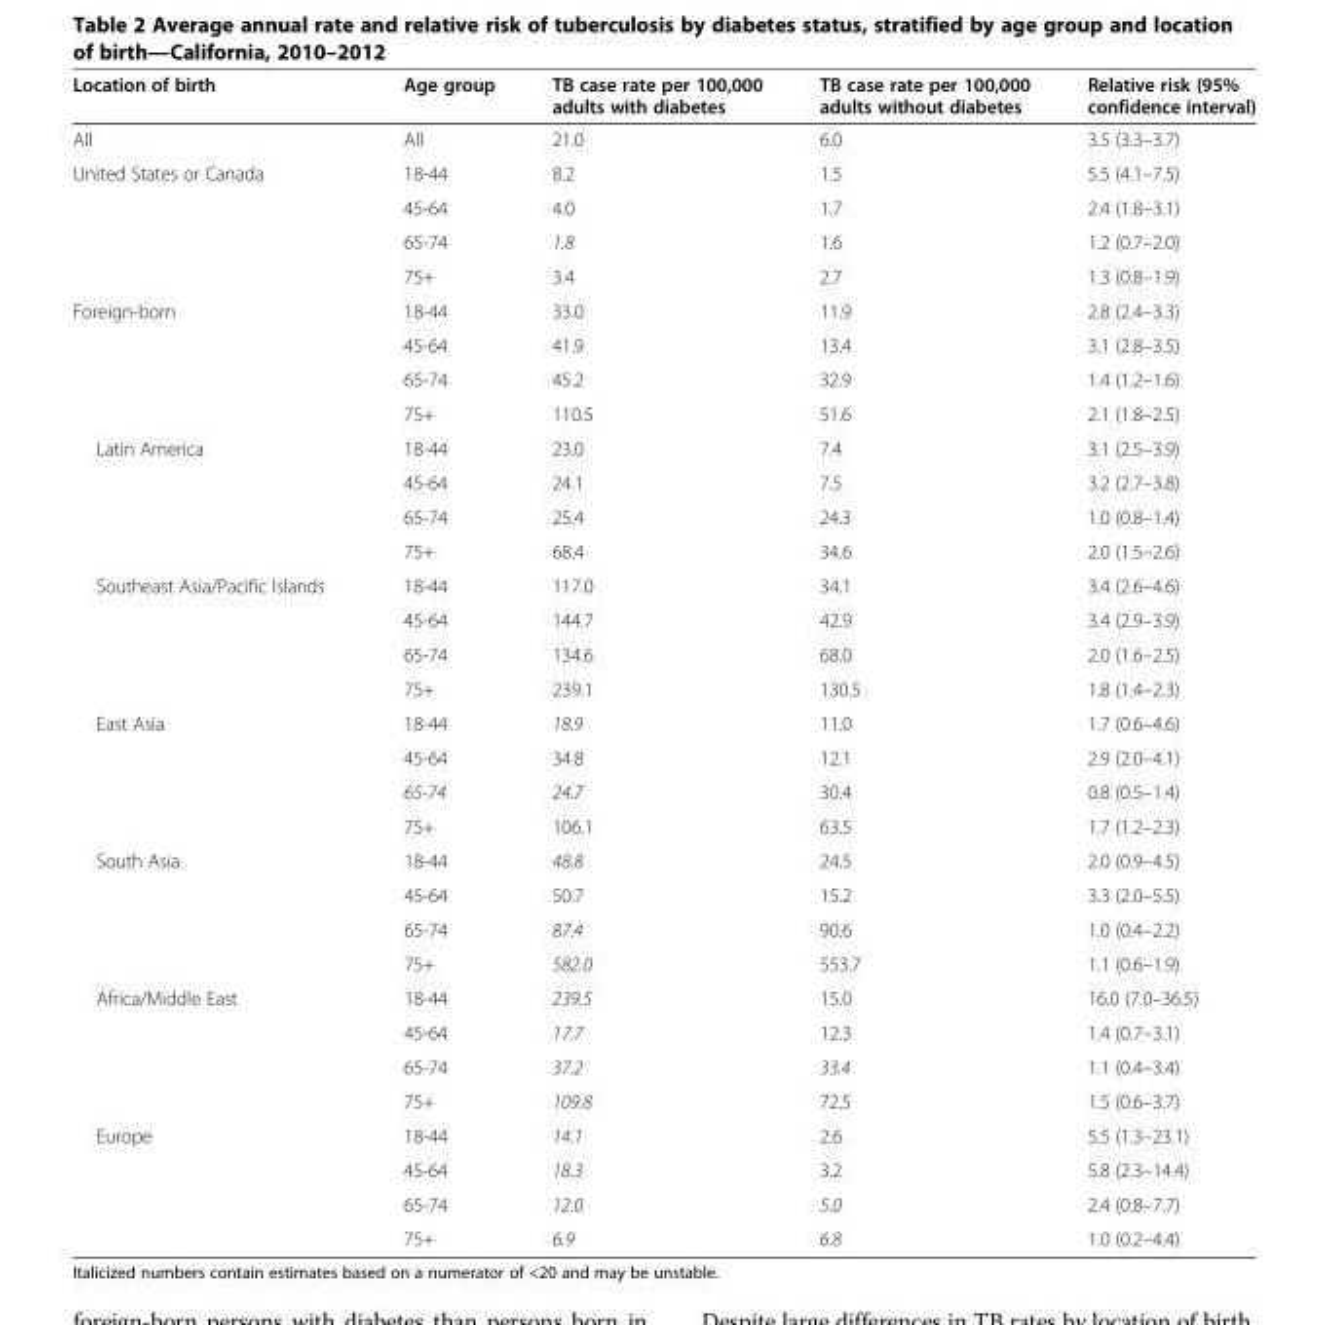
<table><thead><tr><td>Location of birth</td><td>Age group</td><td>TB case rate per 100,000 adults with diabetes</td><td>TB case rate per 100,000 adults without diabetes</td><td>Relative risk (95% confidence interval)</td></tr></thead><tbody><tr><td>All</td><td>All</td><td>21.0</td><td>6.0</td><td>3.5 (3.3–3.7)</td></tr><tr><td rowspan="4">United States or Canada</td><td>18-44</td><td>8.2</td><td>1.5</td><td>5.5 (4.1–7.5)</td></tr><tr><td>45-64</td><td>4.0</td><td>1.7</td><td>2.4 (1.8–3.1)</td></tr><tr><td>65-74</td><td>1.8</td><td>1.6</td><td>1.2 (0.7–2.0)</td></tr><tr><td>75+</td><td>3.4</td><td>2.7</td><td>1.3 (0.8–1.9)</td></tr><tr><td rowspan="4">Foreign-born</td><td>18-44</td><td>33.0</td><td>11.9</td><td>2.8 (2.4–3.3)</td></tr><tr><td>45-64</td><td>41.9</td><td>13.4</td><td>3.1 (2.8–3.5)</td></tr><tr><td>65-74</td><td>45.2</td><td>32.9</td><td>1.4 (1.2–1.6)</td></tr><tr><td>75+</td><td>110.5</td><td>51.6</td><td>2.1 (1.8–2.5)</td></tr><tr><td rowspan="4">Latin America</td><td>18-44</td><td>23.0</td><td>7.4</td><td>3.1 (2.5–3.9)</td></tr><tr><td>45-64</td><td>24.1</td><td>7.5</td><td>3.2 (2.7–3.8)</td></tr><tr><td>65-74</td><td>25.4</td><td>24.3</td><td>1.0 (0.8–1.4)</td></tr><tr><td>75+</td><td>68.4</td><td>34.6</td><td>2.0 (1.5–2.6)</td></tr><tr><td rowspan="4">Southeast Asia/Pacific Islands</td><td>18-44</td><td>117.0</td><td>34.1</td><td>3.4 (2.6–4.6)</td></tr><tr><td>45-64</td><td>144.7</td><td>42.9</td><td>3.4 (2.9–3.9)</td></tr><tr><td>65-74</td><td>134.6</td><td>68.0</td><td>2.0 (1.6–2.5)</td></tr><tr><td>75+</td><td>239.1</td><td>130.5</td><td>1.8 (1.4–2.3)</td></tr><tr><td rowspan="4">East Asia</td><td>18-44</td><td>18.9</td><td>11.0</td><td>1.7 (0.6–4.6)</td></tr><tr><td>45-64</td><td>34.8</td><td>12.1</td><td>2.9 (2.0–4.1)</td></tr><tr><td>65-74</td><td>24.7</td><td>30.4</td><td>0.8 (0.5–1.4)</td></tr><tr><td>75+</td><td>106.1</td><td>63.5</td><td>1.7 (1.2–2.3)</td></tr><tr><td rowspan="4">South Asia</td><td>18-44</td><td>48.8</td><td>24.5</td><td>2.0 (0.9–4.5)</td></tr><tr><td>45-64</td><td>50.7</td><td>15.2</td><td>3.3 (2.0–5.5)</td></tr><tr><td>65-74</td><td>87.4</td><td>90.6</td><td>1.0 (0.4–2.2)</td></tr><tr><td>75+</td><td>582.0</td><td>553.7</td><td>1.1 (0.6–1.9)</td></tr><tr><td rowspan="4">Africa/Middle East</td><td>18-44</td><td>239.5</td><td>15.0</td><td>16.0 (7.0–36.5)</td></tr><tr><td>45-64</td><td>17.7</td><td>12.3</td><td>1.4 (0.7–3.1)</td></tr><tr><td>65-74</td><td>37.2</td><td>33.4</td><td>1.1 (0.4–3.4)</td></tr><tr><td>75+</td><td>109.8</td><td>72.5</td><td>1.5 (0.6–3.7)</td></tr><tr><td rowspan="4">Europe</td><td>18-44</td><td>14.1</td><td>2.6</td><td>5.5 (1.3–23.1)</td></tr><tr><td>45-64</td><td>18.3</td><td>3.2</td><td>5.8 (2.3–14.4)</td></tr><tr><td>65-74</td><td>12.0</td><td>5.0</td><td>2.4 (0.8–7.7)</td></tr><tr><td>75+</td><td>6.9</td><td>6.8</td><td>1.0 (0.2–4.4)</td></tr></tbody></table>